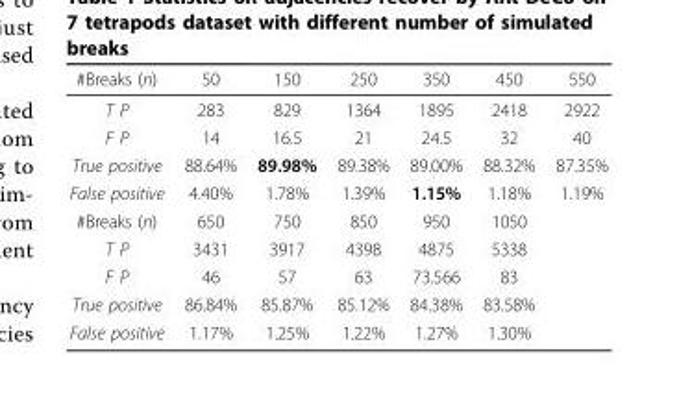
<table><thead><tr><td>#Breaks (n)</td><td>50</td><td>150</td><td>250</td><td>350</td><td>450</td><td>550</td></tr></thead><tbody><tr><td>T P</td><td>283</td><td>829</td><td>1364</td><td>1895</td><td>2418</td><td>2922</td></tr><tr><td>F P</td><td>14</td><td>16.5</td><td>21</td><td>24.5</td><td>32</td><td>40</td></tr><tr><td>True positive</td><td>88.64%</td><td>89.98%</td><td>89.38%</td><td>89.00%</td><td>88.32%</td><td>87.35%</td></tr><tr><td>False positive</td><td>4.40%</td><td>1.78%</td><td>1.39%</td><td>1.15%</td><td>1.18%</td><td>1.19%</td></tr><tr><td>#Breaks (n)</td><td>650</td><td>750</td><td>850</td><td>950</td><td>1050</td><td></td></tr><tr><td>T P</td><td>3431</td><td>3917</td><td>4398</td><td>4875</td><td>5338</td><td></td></tr><tr><td>F P</td><td>46</td><td>57</td><td>63</td><td>73.566</td><td>83</td><td></td></tr><tr><td>True positive</td><td>86.84%</td><td>85.87%</td><td>85.12%</td><td>84.38%</td><td>83.58%</td><td></td></tr><tr><td>False positive</td><td>1.17%</td><td>1.25%</td><td>1.22%</td><td>1.27%</td><td>1.30%</td><td></td></tr></tbody></table>